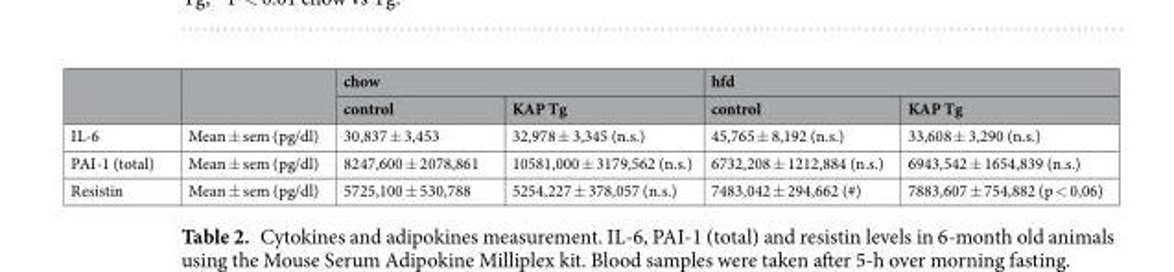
<table><thead><tr><td rowspan="2"></td><td rowspan="2"></td><td colspan="2">chow</td><td colspan="2">hfd</td></tr><tr><td>control</td><td>KAP Tg</td><td>control</td><td>KAP Tg</td></tr></thead><tbody><tr><td>IL-6</td><td>Mean ± sem (pg/dl)</td><td>30,837 ± 3,453</td><td>32,978 ± 3,345 (n.s.)</td><td>45,765 ± 8,192 (n.s.)</td><td>33,608 ± 3,290 (n.s.)</td></tr><tr><td>PAI-1 (total)</td><td>Mean ± sem (pg/dl)</td><td>8247,600 ± 2078,861</td><td>10581,000 ± 3179,562 (n.s.)</td><td>6732,208 ± 1212,884 (n.s.)</td><td>6943,542 ± 1654,839 (n.s.)</td></tr><tr><td>Resistin</td><td>Mean ± sem (pg/dl)</td><td>5725,100 ± 530,788</td><td>5254,227 ± 378,057 (n.s.)</td><td>7483,042 ± 294,662 (#)</td><td>7883,607 ± 754,882 (p &lt; 0,06)</td></tr></tbody></table>